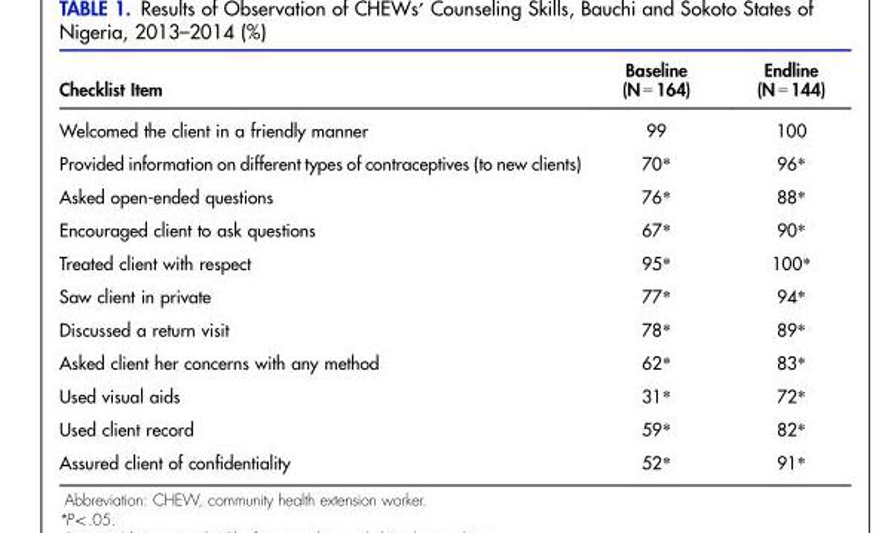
<table><thead><tr><td>Checklist Item</td><td>Baseline (N = 164)</td><td>Endline (N = 144)</td></tr></thead><tbody><tr><td>Welcomed the client in a friendly manner</td><td>99</td><td>100</td></tr><tr><td>Provided information on different types of contraceptives (to new clients)</td><td>70*</td><td>96*</td></tr><tr><td>Asked open-ended questions</td><td>76*</td><td>88*</td></tr><tr><td>Encouraged client to ask questions</td><td>67*</td><td>90*</td></tr><tr><td>Treated client with respect</td><td>95*</td><td>100*</td></tr><tr><td>Saw client in private</td><td>77*</td><td>94*</td></tr><tr><td>Discussed a return visit</td><td>78*</td><td>89*</td></tr><tr><td>Asked client her concerns with any method</td><td>62*</td><td>83*</td></tr><tr><td>Used visual aids</td><td>31*</td><td>72*</td></tr><tr><td>Used client record</td><td>59*</td><td>82*</td></tr><tr><td>Assured client of confidentiality</td><td>52*</td><td>91*</td></tr></tbody></table>